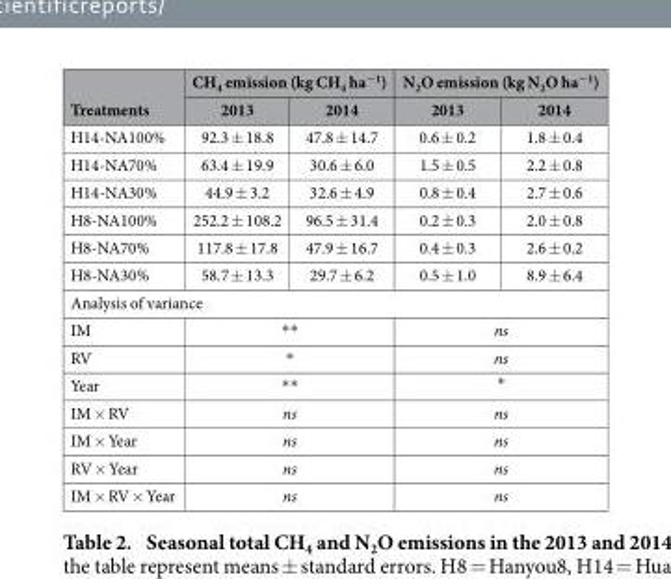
<table><thead><tr><td rowspan="2">Treatments</td><td colspan="2">CH<sub>4</sub> emission (kg CH<sub>4</sub> ha<sup>−1</sup>)</td><td colspan="2">N<sub>2</sub>O emission (kg N<sub>2</sub>O ha<sup>−1</sup>)</td></tr><tr><td>2013</td><td>2014</td><td>2013</td><td>2014</td></tr></thead><tbody><tr><td>H14-NA100%</td><td>92.3 ± 18.8</td><td>47.8 ± 14.7</td><td>0.6 ± 0.2</td><td>1.8 ± 0.4</td></tr><tr><td>H14-NA70%</td><td>63.4 ± 19.9</td><td>30.6 ± 6.0</td><td>1.5 ± 0.5</td><td>2.2 ± 0.8</td></tr><tr><td>H14-NA30%</td><td>44.9 ± 3.2</td><td>32.6 ± 4.9</td><td>0.8 ± 0.4</td><td>2.7 ± 0.6</td></tr><tr><td>H8-NA100%</td><td>252.2 ± 108.2</td><td>96.5 ± 31.4</td><td>0.2 ± 0.3</td><td>2.0 ± 0.8</td></tr><tr><td>H8-NA70%</td><td>117.8 ± 17.8</td><td>47.9 ± 16.7</td><td>0.4 ± 0.3</td><td>2.6 ± 0.2</td></tr><tr><td>H8-NA30%</td><td>58.7 ± 13.3</td><td>29.7 ± 6.2</td><td>0.5 ± 1.0</td><td>8.9 ± 6.4</td></tr><tr><td colspan="5">Analysis of variance</td></tr><tr><td>IM</td><td colspan="2">* *</td><td colspan="2">ns</td></tr><tr><td>RV</td><td colspan="2">*</td><td colspan="2">ns</td></tr><tr><td>Year</td><td colspan="2">* *</td><td colspan="2">*</td></tr><tr><td>IM × RV</td><td colspan="2">ns</td><td colspan="2">ns</td></tr><tr><td>IM × Year</td><td colspan="2">ns</td><td colspan="2">ns</td></tr><tr><td>RV × Year</td><td colspan="2">ns</td><td colspan="2">ns</td></tr><tr><td>IM × RV × Year</td><td colspan="2">ns</td><td colspan="2">ns</td></tr></tbody></table>